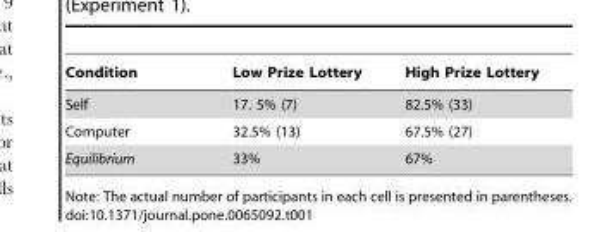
<table><thead><tr><td>Condition</td><td>Low Prize Lottery</td><td>High Prize Lottery</td></tr></thead><tbody><tr><td>Self</td><td>17. 5% (7)</td><td>82.5% (33)</td></tr><tr><td>Computer</td><td>32.5% (13)</td><td>67.5% (27)</td></tr><tr><td>Equilibrium</td><td>33%</td><td>67%</td></tr></tbody></table>